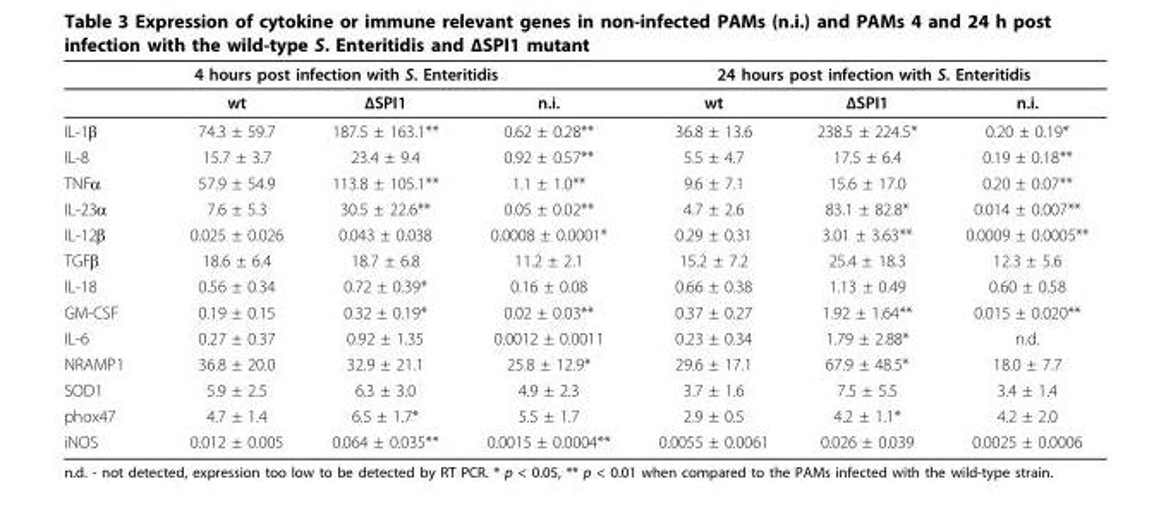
<table><thead><tr><td colspan="4">4 hours post infection with S. Enteritidis</td><td colspan="3">24 hours post infection with S. Enteritidis</td></tr><tr><td></td><td>wt</td><td>ΔSPI1</td><td>n.i.</td><td>wt</td><td>ΔSPI1</td><td>n.i.</td></tr></thead><tbody><tr><td>IL-1β</td><td>74.3 ± 59.7</td><td>187.5 ± 163.1**</td><td>0.62 ± 0.28**</td><td>36.8 ± 13.6</td><td>238.5 ± 224.5*</td><td>0.20 ± 0.19*</td></tr><tr><td>IL-8</td><td>15.7 ± 3.7</td><td>23.4 ± 9.4</td><td>0.92 ± 0.57**</td><td>5.5 ± 4.7</td><td>17.5 ± 6.4</td><td>0.19 ± 0.18**</td></tr><tr><td>TNFα</td><td>57.9 ± 54.9</td><td>113.8 ± 105.1**</td><td>1.1 ± 1.0**</td><td>9.6 ± 7.1</td><td>15.6 ± 17.0</td><td>0.20 ± 0.07**</td></tr><tr><td>IL-23α</td><td>7.6 ± 5.3</td><td>30.5 ± 22.6**</td><td>0.05 ± 0.02**</td><td>4.7 ± 2.6</td><td>83.1 ± 82.8*</td><td>0.014 ± 0.007**</td></tr><tr><td>IL-12β</td><td>0.025 ± 0.026</td><td>0.043 ± 0.038</td><td>0.0008 ± 0.0001*</td><td>0.29 ± 0.31</td><td>3.01 ± 3.63**</td><td>0.0009 ± 0.0005**</td></tr><tr><td>TGFβ</td><td>18.6 ± 6.4</td><td>18.7 ± 6.8</td><td>11.2 ± 2.1</td><td>15.2 ± 7.2</td><td>25.4 ± 18.3</td><td>12.3 ± 5.6</td></tr><tr><td>IL-18</td><td>0.56 ± 0.34</td><td>0.72 ± 0.39*</td><td>0.16 ± 0.08</td><td>0.66 ± 0.38</td><td>1.13 ± 0.49</td><td>0.60 ± 0.58</td></tr><tr><td>GM-CSF</td><td>0.19 ± 0.15</td><td>0.32 ± 0.19*</td><td>0.02 ± 0.03**</td><td>0.37 ± 0.27</td><td>1.92 ± 1.64**</td><td>0.015 ± 0.020**</td></tr><tr><td>IL-6</td><td>0.27 ± 0.37</td><td>0.92 ± 1.35</td><td>0.0012 ± 0.0011</td><td>0.23 ± 0.34</td><td>1.79 ± 2.88*</td><td>n.d.</td></tr><tr><td>NRAMP1</td><td>36.8 ± 20.0</td><td>32.9 ± 21.1</td><td>25.8 ± 12.9*</td><td>29.6 ± 17.1</td><td>67.9 ± 48.5*</td><td>18.0 ± 7.7</td></tr><tr><td>SOD1</td><td>5.9 ± 2.5</td><td>6.3 ± 3.0</td><td>4.9 ± 2.3</td><td>3.7 ± 1.6</td><td>7.5 ± 5.5</td><td>3.4 ± 1.4</td></tr><tr><td>phox47</td><td>4.7 ± 1.4</td><td>6.5 ± 1.7*</td><td>5.5 ± 1.7</td><td>2.9 ± 0.5</td><td>4.2 ± 1.1*</td><td>4.2 ± 2.0</td></tr><tr><td>iNOS</td><td>0.012 ± 0.005</td><td>0.064 ± 0.035**</td><td>0.0015 ± 0.0004**</td><td>0.0055 ± 0.0061</td><td>0.026 ± 0.039</td><td>0.0025 ± 0.0006</td></tr></tbody></table>